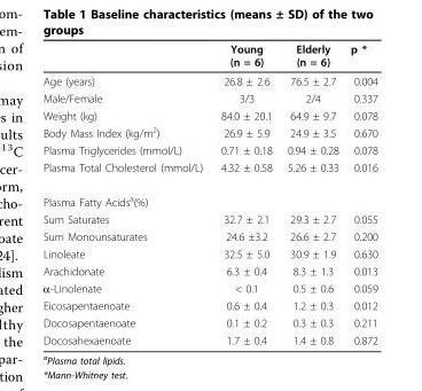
<table><thead><tr><td></td><td>Young (n = 6)</td><td>Elderly (n = 6)</td><td>p *</td></tr></thead><tbody><tr><td>Age (years)</td><td>26.8 ± 2.6</td><td>76.5 ± 2.7</td><td>0.004</td></tr><tr><td>Male/Female</td><td>3/3</td><td>2/4</td><td>0.337</td></tr><tr><td>Weight (kg)</td><td>84.0 ± 20.1</td><td>64.9 ± 9.7</td><td>0.078</td></tr><tr><td>Body Mass Index (kg/m<sup>2</sup>)</td><td>26.9 ± 5.9</td><td>24.9 ± 3.5</td><td>0.670</td></tr><tr><td>Plasma Triglycerides (mmol/L)</td><td>0.71 ± 0.18</td><td>0.94 ± 0.28</td><td>0.078</td></tr><tr><td>Plasma Total Cholesterol (mmol/L)</td><td>4.32 ± 0.58</td><td>5.26 ± 0.33</td><td>0.016</td></tr><tr><td colspan="4">Plasma Fatty Acids<sup>a</sup>(%)</td></tr><tr><td>Sum Saturates</td><td>32.7 ± 2.1</td><td>29.3 ± 2.7</td><td>0.055</td></tr><tr><td>Sum Monounsaturates</td><td>24.6 ±3.2</td><td>26.6 ± 2.7</td><td>0.200</td></tr><tr><td>Linoleate</td><td>32.5 ± 5.0</td><td>30.9 ± 1.9</td><td>0.630</td></tr><tr><td>Arachidonate</td><td>6.3 ± 0.4</td><td>8.3 ± 1.3</td><td>0.013</td></tr><tr><td>α-Linolenate</td><td>&lt; 0.1</td><td>0.5 ± 0.6</td><td>0.059</td></tr><tr><td>Eicosapentaenoate</td><td>0.6 ± 0.4</td><td>1.2 ± 0.3</td><td>0.012</td></tr><tr><td>Docosapentaenoate</td><td>0.1 ± 0.2</td><td>0.3 ± 0.3</td><td>0.211</td></tr><tr><td>Docosahexaenoate</td><td>1.7 ± 0.4</td><td>1.4 ± 0.8</td><td>0.872</td></tr></tbody></table>